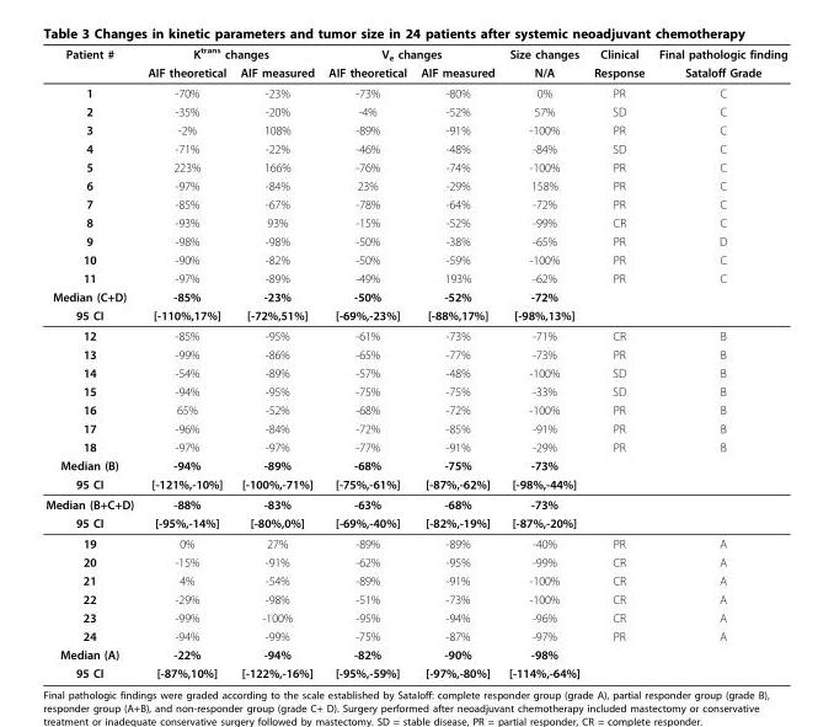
<table><thead><tr><td rowspan="2">Patient #</td><td colspan="2">K<sup>trans</sup> changes</td><td colspan="2">V<sub>e</sub> changes</td><td rowspan="2">Size changes N/A</td><td rowspan="2">Clinical Response</td><td rowspan="2">Final pathologic finding Sataloff Grade</td></tr><tr><td>AIF theoretical</td><td>AIF measured</td><td>AIF theoretical</td><td>AIF measured</td></tr></thead><tbody><tr><td>1</td><td>-70%</td><td>-23%</td><td>-73%</td><td>-80%</td><td>0%</td><td>PR</td><td>C</td></tr><tr><td>2</td><td>-35%</td><td>-20%</td><td>-4%</td><td>-52%</td><td>57%</td><td>SD</td><td>C</td></tr><tr><td>3</td><td>-2%</td><td>108%</td><td>-89%</td><td>-91%</td><td>-100%</td><td>PR</td><td>C</td></tr><tr><td>4</td><td>-71%</td><td>-22%</td><td>-46%</td><td>-48%</td><td>-84%</td><td>SD</td><td>C</td></tr><tr><td>5</td><td>223%</td><td>166%</td><td>-76%</td><td>-74%</td><td>-100%</td><td>PR</td><td>C</td></tr><tr><td>6</td><td>-97%</td><td>-84%</td><td>23%</td><td>-29%</td><td>158%</td><td>PR</td><td>C</td></tr><tr><td>7</td><td>-85%</td><td>-67%</td><td>-78%</td><td>-64%</td><td>-72%</td><td>PR</td><td>C</td></tr><tr><td>8</td><td>-93%</td><td>93%</td><td>-15%</td><td>-52%</td><td>-99%</td><td>CR</td><td>C</td></tr><tr><td>9</td><td>-98%</td><td>-98%</td><td>-50%</td><td>-38%</td><td>-65%</td><td>PR</td><td>D</td></tr><tr><td>10</td><td>-90%</td><td>-82%</td><td>-50%</td><td>-59%</td><td>-100%</td><td>PR</td><td>C</td></tr><tr><td>11</td><td>-97%</td><td>-89%</td><td>-49%</td><td>193%</td><td>-62%</td><td>PR</td><td>C</td></tr><tr><td>Median (C+D)</td><td>-85%</td><td>-23%</td><td>-50%</td><td>-52%</td><td>-72%</td><td></td><td></td></tr><tr><td>95 CI</td><td>[-110%,17%]</td><td>[-72%,51%]</td><td>[-69%,-23%]</td><td>[-88%,17%]</td><td>[-98%,13%]</td><td></td><td></td></tr><tr><td>12</td><td>-85%</td><td>-95%</td><td>-61%</td><td>-73%</td><td>-71%</td><td>CR</td><td>B</td></tr><tr><td>13</td><td>-99%</td><td>-86%</td><td>-65%</td><td>-77%</td><td>-73%</td><td>PR</td><td>B</td></tr><tr><td>14</td><td>-54%</td><td>-89%</td><td>-57%</td><td>-48%</td><td>-100%</td><td>SD</td><td>B</td></tr><tr><td>15</td><td>-94%</td><td>-95%</td><td>-75%</td><td>-75%</td><td>-33%</td><td>SD</td><td>B</td></tr><tr><td>16</td><td>65%</td><td>-52%</td><td>-68%</td><td>-72%</td><td>-100%</td><td>PR</td><td>B</td></tr><tr><td>17</td><td>-96%</td><td>-84%</td><td>-72%</td><td>-85%</td><td>-91%</td><td>PR</td><td>B</td></tr><tr><td>18</td><td>-97%</td><td>-97%</td><td>-77%</td><td>-91%</td><td>-29%</td><td>PR</td><td>B</td></tr><tr><td>Median (B)</td><td>-94%</td><td>-89%</td><td>-68%</td><td>-75%</td><td>-73%</td><td></td><td></td></tr><tr><td>95 CI</td><td>[-121%,-10%]</td><td>[-100%,-71%]</td><td>[-75%,-61%]</td><td>[-87%,-62%]</td><td>[-98%,-44%]</td><td></td><td></td></tr><tr><td>Median (B+C+D)</td><td>-88%</td><td>-83%</td><td>-63%</td><td>-68%</td><td>-73%</td><td></td><td></td></tr><tr><td>95 CI</td><td>[-95%,-14%]</td><td>[-80%,0%]</td><td>[-69%,-40%]</td><td>[-82%,-19%]</td><td>[-87%,-20%]</td><td></td><td></td></tr><tr><td>19</td><td>0%</td><td>27%</td><td>-89%</td><td>-89%</td><td>-40%</td><td>PR</td><td>A</td></tr><tr><td>20</td><td>-15%</td><td>-91%</td><td>-62%</td><td>-95%</td><td>-99%</td><td>CR</td><td>A</td></tr><tr><td>21</td><td>4%</td><td>-54%</td><td>-89%</td><td>-91%</td><td>-100%</td><td>CR</td><td>A</td></tr><tr><td>22</td><td>-29%</td><td>-98%</td><td>-51%</td><td>-73%</td><td>-100%</td><td>CR</td><td>A</td></tr><tr><td>23</td><td>-99%</td><td>-100%</td><td>-95%</td><td>-94%</td><td>-96%</td><td>CR</td><td>A</td></tr><tr><td>24</td><td>-94%</td><td>-99%</td><td>-75%</td><td>-87%</td><td>-97%</td><td>PR</td><td>A</td></tr><tr><td>Median (A)</td><td>-22%</td><td>-94%</td><td>-82%</td><td>-90%</td><td>-98%</td><td></td><td></td></tr><tr><td>95 CI</td><td>[-87%,10%]</td><td>[-122%,-16%]</td><td>[-95%,-59%]</td><td>[-97%,-80%]</td><td>[-114%,-64%]</td><td></td><td></td></tr></tbody></table>